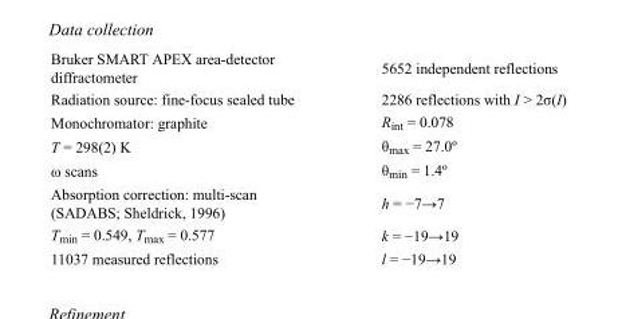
<table><tbody><tr><td>Bruker SMART APEX area-detector diffractometer</td><td>5652 independent reflections</td></tr><tr><td>Radiation source: fine-focus sealed tube</td><td>2286 reflections with I &gt; 2σ(I)</td></tr><tr><td>Monochromator: graphite</td><td>R<sub>int</sub> = 0.078</td></tr><tr><td>T = 298(2) K</td><td>θ<sub>max</sub> = 27.0º</td></tr><tr><td>ω scans</td><td>θ<sub>min</sub> = 1.4º</td></tr><tr><td>Absorption correction: multi-scan (SADABS; Sheldrick, 1996)</td><td>h = −7→7</td></tr><tr><td>T<sub>min</sub> = 0.549, T<sub>max</sub> = 0.577</td><td>k = −19→19</td></tr><tr><td>11037 measured reflections</td><td>l = −19→19</td></tr></tbody></table>